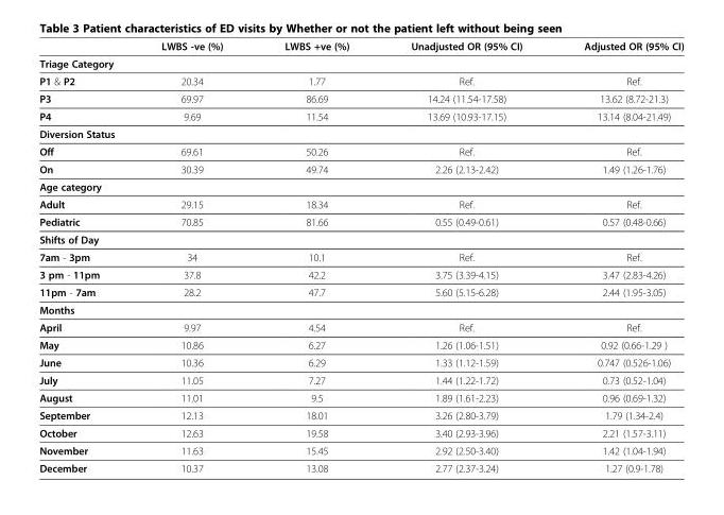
<table><thead><tr><td></td><td>LWBS -ve (%)</td><td>LWBS +ve (%)</td><td>Unadjusted OR (95% CI)</td><td>Adjusted OR (95% CI)</td></tr></thead><tbody><tr><td colspan="5">Triage Category</td></tr><tr><td>P1 &amp; P2</td><td>20.34</td><td>1.77</td><td>Ref.</td><td>Ref.</td></tr><tr><td>P3</td><td>69.97</td><td>86.69</td><td>14.24 (11.54-17.58)</td><td>13.62 (8.72-21.3)</td></tr><tr><td>P4</td><td>9.69</td><td>11.54</td><td>13.69 (10.93-17.15)</td><td>13.14 (8.04-21.49)</td></tr><tr><td colspan="5">Diversion Status</td></tr><tr><td>Off</td><td>69.61</td><td>50.26</td><td>Ref.</td><td>Ref.</td></tr><tr><td>On</td><td>30.39</td><td>49.74</td><td>2.26 (2.13-2.42)</td><td>1.49 (1.26-1.76)</td></tr><tr><td colspan="5">Age category</td></tr><tr><td>Adult</td><td>29.15</td><td>18.34</td><td>Ref.</td><td>Ref.</td></tr><tr><td>Pediatric</td><td>70.85</td><td>81.66</td><td>0.55 (0.49-0.61)</td><td>0.57 (0.48-0.66)</td></tr><tr><td colspan="5">Shifts of Day</td></tr><tr><td>7am - 3pm</td><td>34</td><td>10.1</td><td>Ref.</td><td>Ref.</td></tr><tr><td>3 pm - 11pm</td><td>37.8</td><td>42.2</td><td>3.75 (3.39-4.15)</td><td>3.47 (2.83-4.26)</td></tr><tr><td>11pm - 7am</td><td>28.2</td><td>47.7</td><td>5.60 (5.15-6.28)</td><td>2.44 (1.95-3.05)</td></tr><tr><td colspan="5">Months</td></tr><tr><td>April</td><td>9.97</td><td>4.54</td><td>Ref.</td><td>Ref.</td></tr><tr><td>May</td><td>10.86</td><td>6.27</td><td>1.26 (1.06-1.51)</td><td>0.92 (0.66-1.29 )</td></tr><tr><td>June</td><td>10.36</td><td>6.29</td><td>1.33 (1.12-1.59)</td><td>0.747 (0.526-1.06)</td></tr><tr><td>July</td><td>11.05</td><td>7.27</td><td>1.44 (1.22-1.72)</td><td>0.73 (0.52-1.04)</td></tr><tr><td>August</td><td>11.01</td><td>9.5</td><td>1.89 (1.61-2.23)</td><td>0.96 (0.69-1.32)</td></tr><tr><td>September</td><td>12.13</td><td>18.01</td><td>3.26 (2.80-3.79)</td><td>1.79 (1.34-2.4)</td></tr><tr><td>October</td><td>12.63</td><td>19.58</td><td>3.40 (2.93-3.96)</td><td>2.21 (1.57-3.11)</td></tr><tr><td>November</td><td>11.63</td><td>15.45</td><td>2.92 (2.50-3.40)</td><td>1.42 (1.04-1.94)</td></tr><tr><td>December</td><td>10.37</td><td>13.08</td><td>2.77 (2.37-3.24)</td><td>1.27 (0.9-1.78)</td></tr></tbody></table>